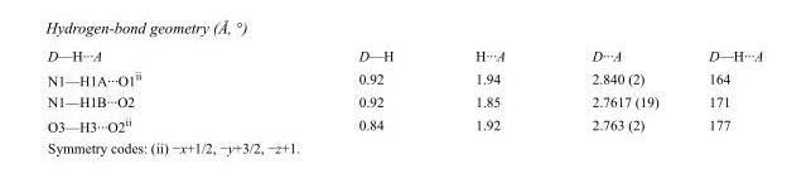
<table><tbody><tr><td>D—H···A</td><td>D—H</td><td>H···A</td><td>D···A</td><td>D—H···A</td></tr><tr><td>N1—H1A···O1<sup>ii</sup></td><td>0.92</td><td>1.94</td><td>2.840 (2)</td><td>164</td></tr><tr><td>N1—H1B···O2</td><td>0.92</td><td>1.85</td><td>2.7617 (19)</td><td>171</td></tr><tr><td>O3—H3···O2<sup>ii</sup></td><td>0.84</td><td>1.92</td><td>2.763 (2)</td><td>177</td></tr></tbody></table>